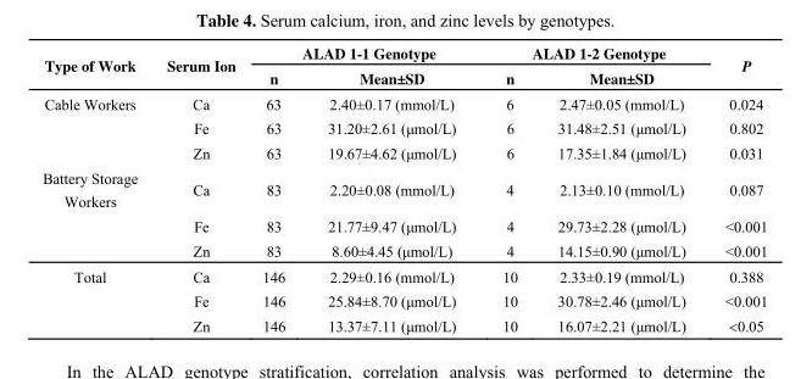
<table><thead><tr><td rowspan="2">Type of Work</td><td rowspan="2">Serum Ion</td><td colspan="2">ALAD 1-1 Genotype</td><td colspan="2">ALAD 1-2 Genotype</td><td rowspan="2">P</td></tr><tr><td>n</td><td>Mean±SD</td><td>n</td><td>Mean±SD</td></tr></thead><tbody><tr><td rowspan="3">Cable Workers</td><td>Ca</td><td>63</td><td>2.40±0.17 (mmol/L)</td><td>6</td><td>2.47±0.05 (mmol/L)</td><td>0.024</td></tr><tr><td>Fe</td><td>63</td><td>31.20±2.61 (μmol/L)</td><td>6</td><td>31.48±2.51 (μmol/L)</td><td>0.802</td></tr><tr><td>Zn</td><td>63</td><td>19.67±4.62 (μmol/L)</td><td>6</td><td>17.35±1.84 (μmol/L)</td><td>0.031</td></tr><tr><td rowspan="3">Battery Storage Workers</td><td>Ca</td><td>83</td><td>2.20±0.08 (mmol/L)</td><td>4</td><td>2.13±0.10 (mmol/L)</td><td>0.087</td></tr><tr><td>Fe</td><td>83</td><td>21.77±9.47 (μmol/L)</td><td>4</td><td>29.73±2.28 (μmol/L)</td><td>&lt;0.001</td></tr><tr><td>Zn</td><td>83</td><td>8.60±4.45 (μmol/L)</td><td>4</td><td>14.15±0.90 (μmol/L)</td><td>&lt;0.001</td></tr><tr><td rowspan="3">Total</td><td>Ca</td><td>146</td><td>2.29±0.16 (mmol/L)</td><td>10</td><td>2.33±0.19 (mmol/L)</td><td>0.388</td></tr><tr><td>Fe</td><td>146</td><td>25.84±8.70 (μmol/L)</td><td>10</td><td>30.78±2.46 (μmol/L)</td><td>&lt;0.001</td></tr><tr><td>Zn</td><td>146</td><td>13.37±7.11 (μmol/L)</td><td>10</td><td>16.07±2.21 (μmol/L)</td><td>&lt;0.05</td></tr></tbody></table>